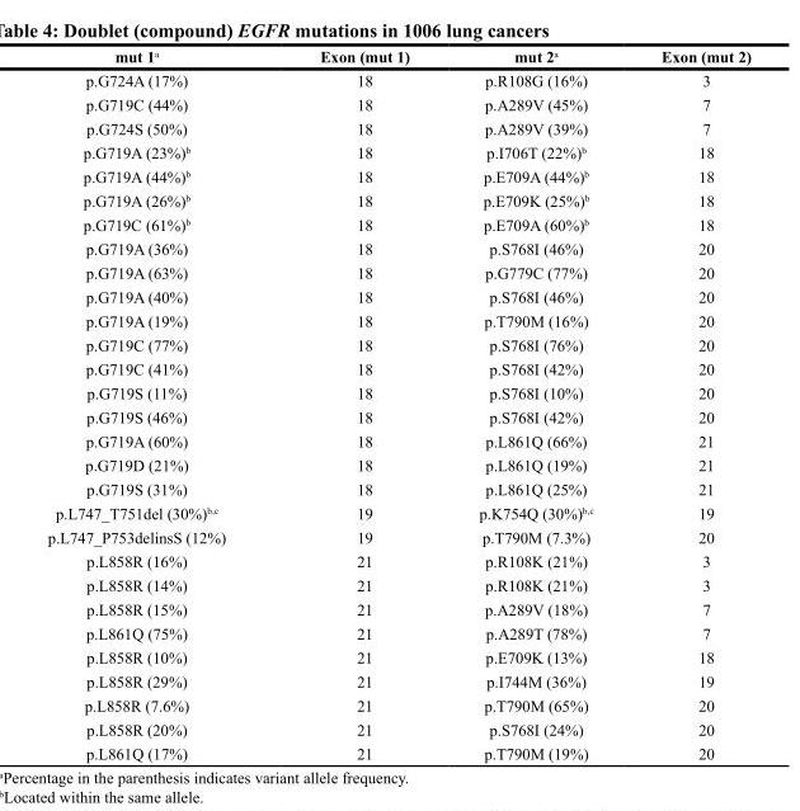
<table><thead><tr><td>mut 1<sup>a</sup></td><td>Exon (mut 1)</td><td>mut 2<sup>a</sup></td><td>Exon (mut 2)</td></tr></thead><tbody><tr><td>p.G724A (17%)</td><td>18</td><td>p.R108G (16%)</td><td>3</td></tr><tr><td>p.G719C (44%)</td><td>18</td><td>p.A289V (45%)</td><td>7</td></tr><tr><td>p.G724S (50%)</td><td>18</td><td>p.A289V (39%)</td><td>7</td></tr><tr><td>p.G719A (23%)<sup>b</sup></td><td>18</td><td>p.I706T (22%)<sup>b</sup></td><td>18</td></tr><tr><td>p.G719A (44%)<sup>b</sup></td><td>18</td><td>p.E709A (44%)<sup>b</sup></td><td>18</td></tr><tr><td>p.G719A (26%)<sup>b</sup></td><td>18</td><td>p.E709K (25%)<sup>b</sup></td><td>18</td></tr><tr><td>p.G719C (61%)<sup>b</sup></td><td>18</td><td>p.E709A (60%)<sup>b</sup></td><td>18</td></tr><tr><td>p.G719A (36%)</td><td>18</td><td>p.S768I (46%)</td><td>20</td></tr><tr><td>p.G719A (63%)</td><td>18</td><td>p.G779C (77%)</td><td>20</td></tr><tr><td>p.G719A (40%)</td><td>18</td><td>p.S768I (46%)</td><td>20</td></tr><tr><td>p.G719A (19%)</td><td>18</td><td>p.T790M (16%)</td><td>20</td></tr><tr><td>p.G719C (77%)</td><td>18</td><td>p.S768I (76%)</td><td>20</td></tr><tr><td>p.G719C (41%)</td><td>18</td><td>p.S768I (42%)</td><td>20</td></tr><tr><td>p.G719S (11%)</td><td>18</td><td>p.S768I (10%)</td><td>20</td></tr><tr><td>p.G719S (46%)</td><td>18</td><td>p.S768I (42%)</td><td>20</td></tr><tr><td>p.G719A (60%)</td><td>18</td><td>p.L861Q (66%)</td><td>21</td></tr><tr><td>p.G719D (21%)</td><td>18</td><td>p.L861Q (19%)</td><td>21</td></tr><tr><td>p.G719S (31%)</td><td>18</td><td>p.L861Q (25%)</td><td>21</td></tr><tr><td>p.L747_T751del (30%)<sup>b,c</sup></td><td>19</td><td>p.K754Q (30%)<sup>b,c</sup></td><td>19</td></tr><tr><td>p.L747_P753delinsS (12%)</td><td>19</td><td>p.T790M (7.3%)</td><td>20</td></tr><tr><td>p.L858R (16%)</td><td>21</td><td>p.R108K (21%)</td><td>3</td></tr><tr><td>p.L858R (14%)</td><td>21</td><td>p.R108K (21%)</td><td>3</td></tr><tr><td>p.L858R (15%)</td><td>21</td><td>p.A289V (18%)</td><td>7</td></tr><tr><td>p.L861Q (75%)</td><td>21</td><td>p.A289T (78%)</td><td>7</td></tr><tr><td>p.L858R (10%)</td><td>21</td><td>p.E709K (13%)</td><td>18</td></tr><tr><td>p.L858R (29%)</td><td>21</td><td>p.I744M (36%)</td><td>19</td></tr><tr><td>p.L858R (7.6%)</td><td>21</td><td>p.T790M (65%)</td><td>20</td></tr><tr><td>p.L858R (20%)</td><td>21</td><td>p.S768I (24%)</td><td>20</td></tr><tr><td>p.L861Q (17%)</td><td>21</td><td>p.T790M (19%)</td><td>20</td></tr></tbody></table>